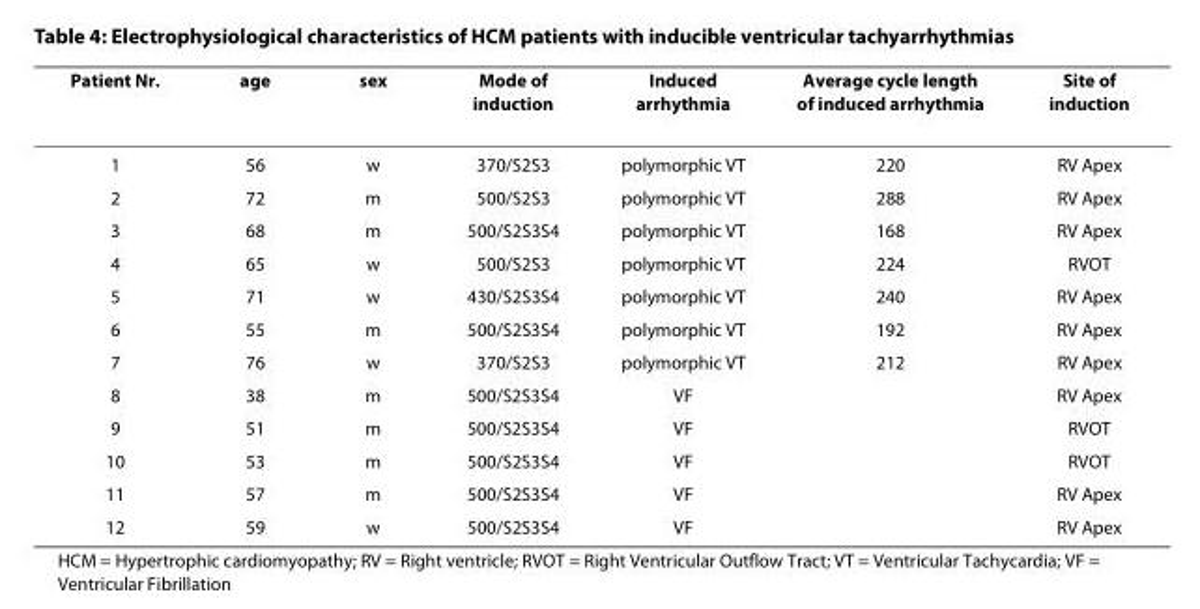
<table><thead><tr><td>Patient Nr.</td><td>age</td><td>sex</td><td>Mode of induction</td><td>Induced arrhythmia</td><td>Average cycle length of induced arrhythmia</td><td>Site of induction</td></tr></thead><tbody><tr><td>1</td><td>56</td><td>w</td><td>370/S2S3</td><td>polymorphic VT</td><td>220</td><td>RV Apex</td></tr><tr><td>2</td><td>72</td><td>m</td><td>500/S2S3</td><td>polymorphic VT</td><td>288</td><td>RV Apex</td></tr><tr><td>3</td><td>68</td><td>m</td><td>500/S2S3S4</td><td>polymorphic VT</td><td>168</td><td>RV Apex</td></tr><tr><td>4</td><td>65</td><td>w</td><td>500/S2S3</td><td>polymorphic VT</td><td>224</td><td>RVOT</td></tr><tr><td>5</td><td>71</td><td>w</td><td>430/S2S3S4</td><td>polymorphic VT</td><td>240</td><td>RV Apex</td></tr><tr><td>6</td><td>55</td><td>m</td><td>500/S2S3S4</td><td>polymorphic VT</td><td>192</td><td>RV Apex</td></tr><tr><td>7</td><td>76</td><td>w</td><td>370/S2S3</td><td>polymorphic VT</td><td>212</td><td>RV Apex</td></tr><tr><td>8</td><td>38</td><td>m</td><td>500/S2S3S4</td><td>VF</td><td></td><td>RV Apex</td></tr><tr><td>9</td><td>51</td><td>m</td><td>500/S2S3S4</td><td>VF</td><td></td><td>RVOT</td></tr><tr><td>10</td><td>53</td><td>m</td><td>500/S2S3S4</td><td>VF</td><td></td><td>RVOT</td></tr><tr><td>11</td><td>57</td><td>m</td><td>500/S2S3S4</td><td>VF</td><td></td><td>RV Apex</td></tr><tr><td>12</td><td>59</td><td>w</td><td>500/S2S3S4</td><td>VF</td><td></td><td>RV Apex</td></tr></tbody></table>